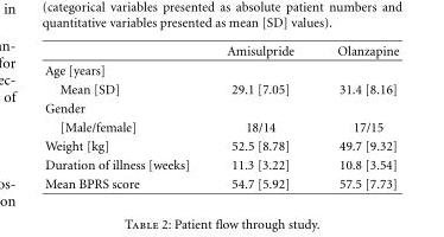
<table><thead><tr><td></td><td>Amisulpride</td><td>Olanzapine</td></tr></thead><tbody><tr><td colspan="3">Age [years]</td></tr><tr><td>Mean [SD]</td><td>29.1 [7.05]</td><td>31.4 [8.16]</td></tr><tr><td colspan="3">Gender</td></tr><tr><td>[Male/female]</td><td>18/14</td><td>17/15</td></tr><tr><td>Weight [kg]</td><td>52.5 [8.78]</td><td>49.7 [9.32]</td></tr><tr><td>Duration of illness [weeks]</td><td>11.3 [3.22]</td><td>10.8 [3.54]</td></tr><tr><td>Mean BPRS score</td><td>54.7 [5.92]</td><td>57.5 [7.73]</td></tr></tbody></table>